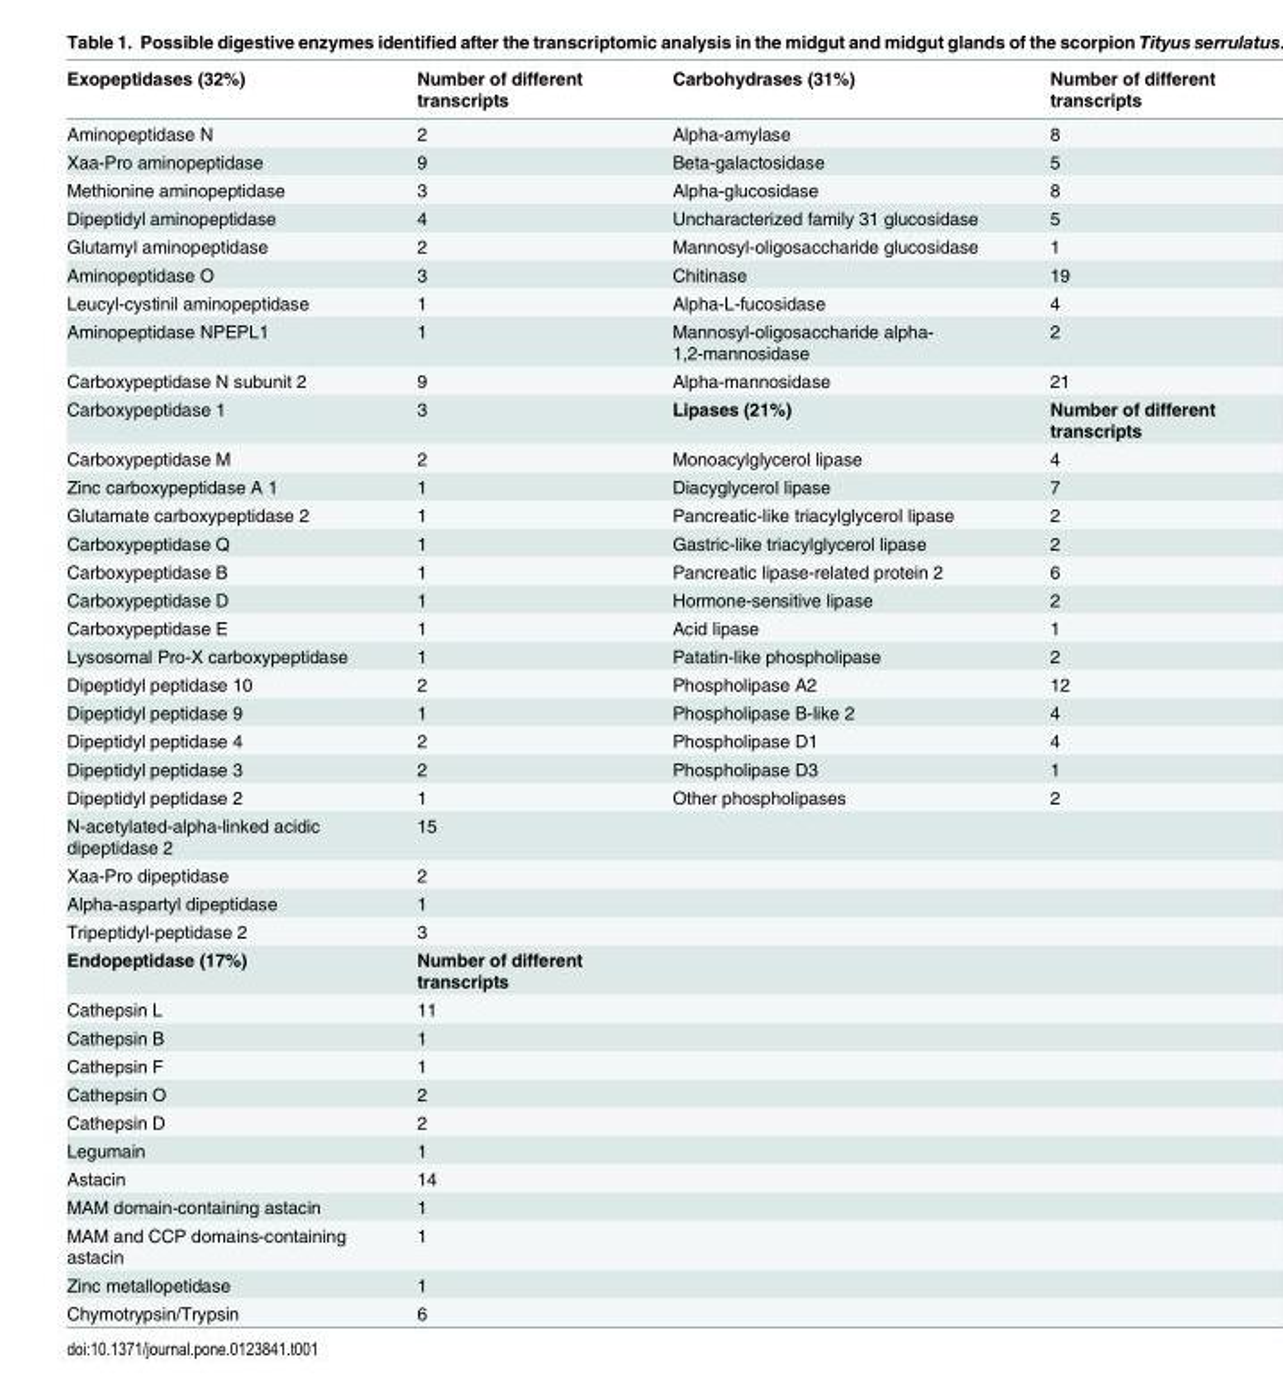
<table><thead><tr><td>Exopeptidases (32%)</td><td>Number of different transcripts</td><td>Carbohydrases (31%)</td><td>Number of different transcripts</td></tr></thead><tbody><tr><td>Aminopeptidase N</td><td>2</td><td>Alpha-amylase</td><td>8</td></tr><tr><td>Xaa-Pro aminopeptidase</td><td>9</td><td>Beta-galactosidase</td><td>5</td></tr><tr><td>Methionine aminopeptidase</td><td>3</td><td>Alpha-glucosidase</td><td>8</td></tr><tr><td>Dipeptidyl aminopeptidase</td><td>4</td><td>Uncharacterized family 31 glucosidase</td><td>5</td></tr><tr><td>Glutamyl aminopeptidase</td><td>2</td><td>Mannosyl-oligosaccharide glucosidase</td><td>1</td></tr><tr><td>Aminopeptidase O</td><td>3</td><td>Chitinase</td><td>19</td></tr><tr><td>Leucyl-cystinil aminopeptidase</td><td>1</td><td>Alpha-L-fucosidase</td><td>4</td></tr><tr><td>Aminopeptidase NPEPL1</td><td>1</td><td>Mannosyl-oligosaccharide alpha- 1,2-mannosidase</td><td>2</td></tr><tr><td>Carboxypeptidase N subunit 2</td><td>9</td><td>Alpha-mannosidase</td><td>21</td></tr><tr><td>Carboxypeptidase 1</td><td>3</td><td>Lipases (21%)</td><td>Number of different transcripts</td></tr><tr><td>Carboxypeptidase M</td><td>2</td><td>Monoacylglycerol lipase</td><td>4</td></tr><tr><td>Zinc carboxypeptidase A 1</td><td>1</td><td>Diacyglycerol lipase</td><td>7</td></tr><tr><td>Glutamate carboxypeptidase 2</td><td>1</td><td>Pancreatic-like triacylglycerol lipase</td><td>2</td></tr><tr><td>Carboxypeptidase Q</td><td>1</td><td>Gastric-like triacylglycerol lipase</td><td>2</td></tr><tr><td>Carboxypeptidase B</td><td>1</td><td>Pancreatic lipase-related protein 2</td><td>6</td></tr><tr><td>Carboxypeptidase D</td><td>1</td><td>Hormone-sensitive lipase</td><td>2</td></tr><tr><td>Carboxypeptidase E</td><td>1</td><td>Acid lipase</td><td>1</td></tr><tr><td>Lysosomal Pro-X carboxypeptidase</td><td>1</td><td>Patatin-like phospholipase</td><td>2</td></tr><tr><td>Dipeptidyl peptidase 10</td><td>2</td><td>Phospholipase A2</td><td>12</td></tr><tr><td>Dipeptidyl peptidase 9</td><td>1</td><td>Phospholipase B-like 2</td><td>4</td></tr><tr><td>Dipeptidyl peptidase 4</td><td>2</td><td>Phospholipase D1</td><td>4</td></tr><tr><td>Dipeptidyl peptidase 3</td><td>2</td><td>Phospholipase D3</td><td>1</td></tr><tr><td>Dipeptidyl peptidase 2</td><td>1</td><td>Other phospholipases</td><td>2</td></tr><tr><td>N-acetylated-alpha-linked acidic dipeptidase 2</td><td>15</td><td></td><td></td></tr><tr><td>Xaa-Pro dipeptidase</td><td>2</td><td></td><td></td></tr><tr><td>Alpha-aspartyl dipeptidase</td><td>1</td><td></td><td></td></tr><tr><td>Tripeptidyl-peptidase 2</td><td>3</td><td></td><td></td></tr><tr><td>Endopeptidase (17%)</td><td>Number of different transcripts</td><td></td><td></td></tr><tr><td>Cathepsin L</td><td>11</td><td></td><td></td></tr><tr><td>Cathepsin B</td><td>1</td><td></td><td></td></tr><tr><td>Cathepsin F</td><td>1</td><td></td><td></td></tr><tr><td>Cathepsin O</td><td>2</td><td></td><td></td></tr><tr><td>Cathepsin D</td><td>2</td><td></td><td></td></tr><tr><td>Legumain</td><td>1</td><td></td><td></td></tr><tr><td>Astacin</td><td>14</td><td></td><td></td></tr><tr><td>MAM domain-containing astacin</td><td>1</td><td></td><td></td></tr><tr><td>MAM and CCP domains-containing astacin</td><td>1</td><td></td><td></td></tr><tr><td>Zinc metallopetidase</td><td>1</td><td></td><td></td></tr><tr><td>Chymotrypsin/Trypsin</td><td>6</td><td></td><td></td></tr></tbody></table>